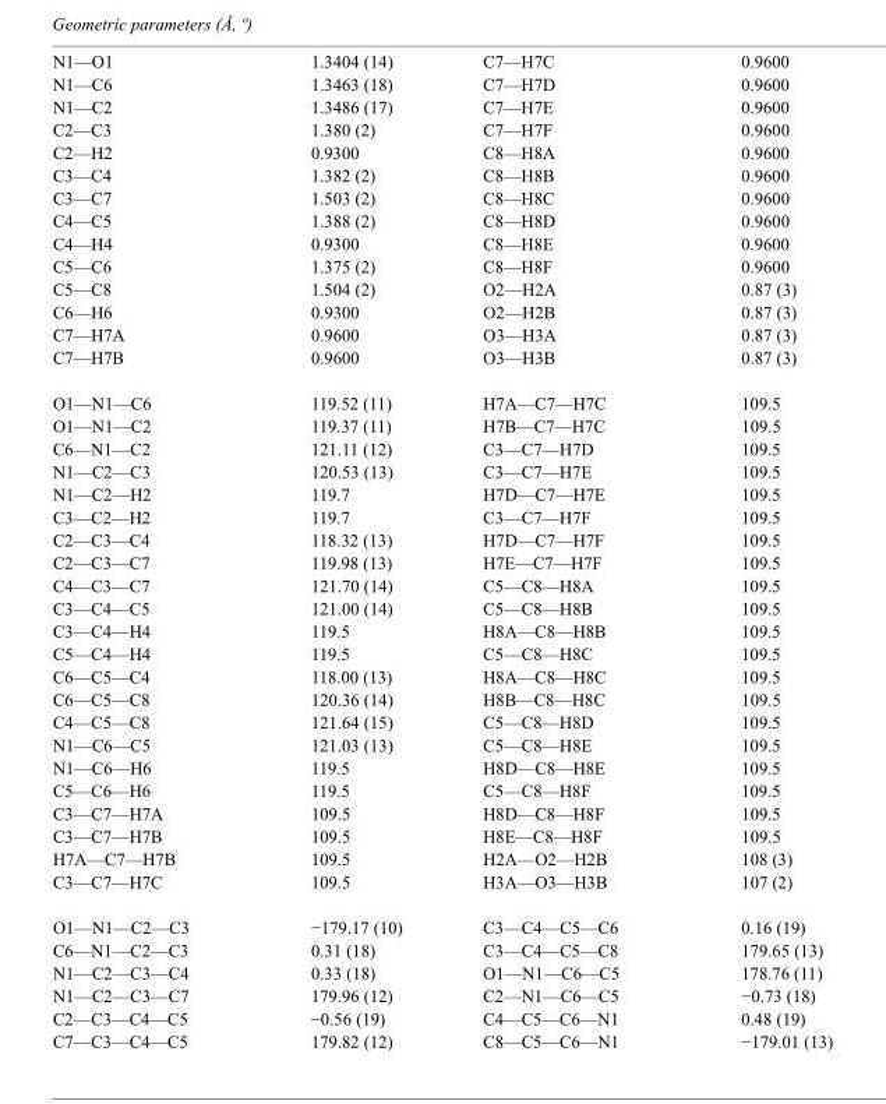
<table><tbody><tr><td>N1—O1</td><td>1.3404 (14)</td><td>C7—H7C</td><td>0.9600</td></tr><tr><td>N1—C6</td><td>1.3463 (18)</td><td>C7—H7D</td><td>0.9600</td></tr><tr><td>N1—C2</td><td>1.3486 (17)</td><td>C7—H7E</td><td>0.9600</td></tr><tr><td>C2—C3</td><td>1.380 (2)</td><td>C7—H7F</td><td>0.9600</td></tr><tr><td>C2—H2</td><td>0.9300</td><td>C8—H8A</td><td>0.9600</td></tr><tr><td>C3—C4</td><td>1.382 (2)</td><td>C8—H8B</td><td>0.9600</td></tr><tr><td>C3—C7</td><td>1.503 (2)</td><td>C8—H8C</td><td>0.9600</td></tr><tr><td>C4—C5</td><td>1.388 (2)</td><td>C8—H8D</td><td>0.9600</td></tr><tr><td>C4—H4</td><td>0.9300</td><td>C8—H8E</td><td>0.9600</td></tr><tr><td>C5—C6</td><td>1.375 (2)</td><td>C8—H8F</td><td>0.9600</td></tr><tr><td>C5—C8</td><td>1.504 (2)</td><td>O2—H2A</td><td>0.87 (3)</td></tr><tr><td>C6—H6</td><td>0.9300</td><td>O2—H2B</td><td>0.87 (3)</td></tr><tr><td>C7—H7A</td><td>0.9600</td><td>O3—H3A</td><td>0.87 (3)</td></tr><tr><td>C7—H7B</td><td>0.9600</td><td>O3—H3B</td><td>0.87 (3)</td></tr><tr><td>O1—N1—C6</td><td>119.52 (11)</td><td>H7A—C7—H7C</td><td>109.5</td></tr><tr><td>O1—N1—C2</td><td>119.37 (11)</td><td>H7B—C7—H7C</td><td>109.5</td></tr><tr><td>C6—N1—C2</td><td>121.11 (12)</td><td>C3—C7—H7D</td><td>109.5</td></tr><tr><td>N1—C2—C3</td><td>120.53 (13)</td><td>C3—C7—H7E</td><td>109.5</td></tr><tr><td>N1—C2—H2</td><td>119.7</td><td>H7D—C7—H7E</td><td>109.5</td></tr><tr><td>C3—C2—H2</td><td>119.7</td><td>C3—C7—H7F</td><td>109.5</td></tr><tr><td>C2—C3—C4</td><td>118.32 (13)</td><td>H7D—C7—H7F</td><td>109.5</td></tr><tr><td>C2—C3—C7</td><td>119.98 (13)</td><td>H7E—C7—H7F</td><td>109.5</td></tr><tr><td>C4—C3—C7</td><td>121.70 (14)</td><td>C5—C8—H8A</td><td>109.5</td></tr><tr><td>C3—C4—C5</td><td>121.00 (14)</td><td>C5—C8—H8B</td><td>109.5</td></tr><tr><td>C3—C4—H4</td><td>119.5</td><td>H8A—C8—H8B</td><td>109.5</td></tr><tr><td>C5—C4—H4</td><td>119.5</td><td>C5—C8—H8C</td><td>109.5</td></tr><tr><td>C6—C5—C4</td><td>118.00 (13)</td><td>H8A—C8—H8C</td><td>109.5</td></tr><tr><td>C6—C5—C8</td><td>120.36 (14)</td><td>H8B—C8—H8C</td><td>109.5</td></tr><tr><td>C4—C5—C8</td><td>121.64 (15)</td><td>C5—C8—H8D</td><td>109.5</td></tr><tr><td>N1—C6—C5</td><td>121.03 (13)</td><td>C5—C8—H8E</td><td>109.5</td></tr><tr><td>N1—C6—H6</td><td>119.5</td><td>H8D—C8—H8E</td><td>109.5</td></tr><tr><td>C5—C6—H6</td><td>119.5</td><td>C5—C8—H8F</td><td>109.5</td></tr><tr><td>C3—C7—H7A</td><td>109.5</td><td>H8D—C8—H8F</td><td>109.5</td></tr><tr><td>C3—C7—H7B</td><td>109.5</td><td>H8E—C8—H8F</td><td>109.5</td></tr><tr><td>H7A—C7—H7B</td><td>109.5</td><td>H2A—O2—H2B</td><td>108 (3)</td></tr><tr><td>C3—C7—H7C</td><td>109.5</td><td>H3A—O3—H3B</td><td>107 (2)</td></tr><tr><td>O1—N1—C2—C3</td><td>−179.17 (10)</td><td>C3—C4—C5—C6</td><td>0.16 (19)</td></tr><tr><td>C6—N1—C2—C3</td><td>0.31 (18)</td><td>C3—C4—C5—C8</td><td>179.65 (13)</td></tr><tr><td>N1—C2—C3—C4</td><td>0.33 (18)</td><td>O1—N1—C6—C5</td><td>178.76 (11)</td></tr><tr><td>N1—C2—C3—C7</td><td>179.96 (12)</td><td>C2—N1—C6—C5</td><td>−0.73 (18)</td></tr><tr><td>C2—C3—C4—C5</td><td>−0.56 (19)</td><td>C4—C5—C6—N1</td><td>0.48 (19)</td></tr><tr><td>C7—C3—C4—C5</td><td>179.82 (12)</td><td>C8—C5—C6—N1</td><td>−179.01 (13)</td></tr></tbody></table>